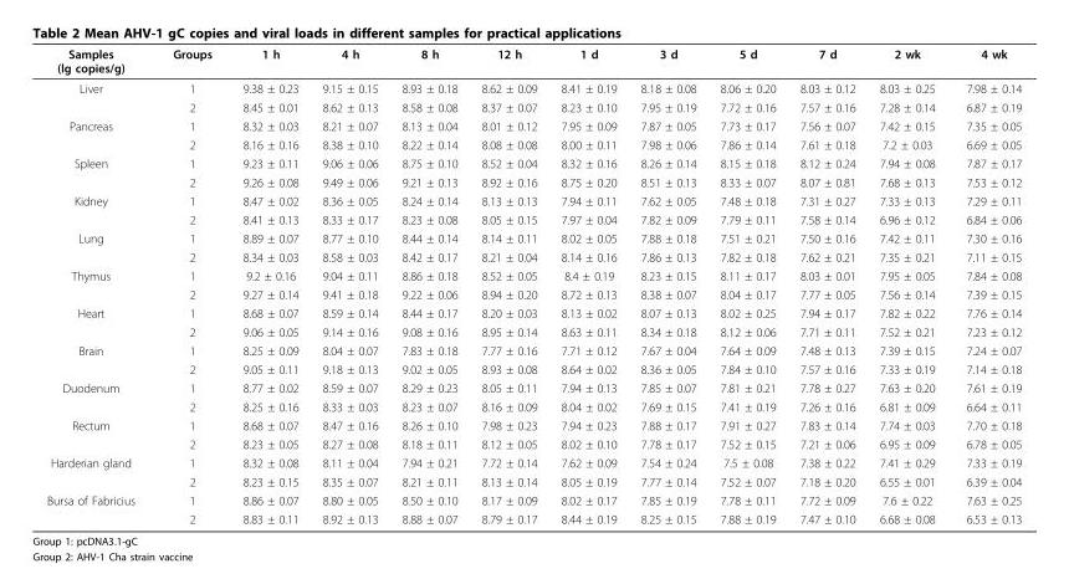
<table><thead><tr><td>Samples (lg copies/g)</td><td>Groups</td><td>1 h</td><td>4 h</td><td>8 h</td><td>12 h</td><td>1 d</td><td>3 d</td><td>5 d</td><td>7 d</td><td>2 wk</td><td>4 wk</td></tr></thead><tbody><tr><td rowspan="2">Liver</td><td>1</td><td>9.38 ± 0.23</td><td>9.15 ± 0.15</td><td>8.93 ± 0.18</td><td>8.62 ± 0.09</td><td>8.41 ± 0.19</td><td>8.18 ± 0.08</td><td>8.06 ± 0.20</td><td>8.03 ± 0.12</td><td>8.03 ± 0.25</td><td>7.98 ± 0.14</td></tr><tr><td>2</td><td>8.45 ± 0.01</td><td>8.62 ± 0.13</td><td>8.58 ± 0.08</td><td>8.37 ± 0.07</td><td>8.23 ± 0.10</td><td>7.95 ± 0.19</td><td>7.72 ± 0.16</td><td>7.57 ± 0.16</td><td>7.28 ± 0.14</td><td>6.87 ± 0.19</td></tr><tr><td rowspan="2">Pancreas</td><td>1</td><td>8.32 ± 0.03</td><td>8.21 ± 0.07</td><td>8.13 ± 0.04</td><td>8.01 ± 0.12</td><td>7.95 ± 0.09</td><td>7.87 ± 0.05</td><td>7.73 ± 0.17</td><td>7.56 ± 0.07</td><td>7.42 ± 0.15</td><td>7.35 ± 0.05</td></tr><tr><td>2</td><td>8.16 ± 0.16</td><td>8.38 ± 0.10</td><td>8.22 ± 0.14</td><td>8.08 ± 0.08</td><td>8.00 ± 0.11</td><td>7.98 ± 0.06</td><td>7.86 ± 0.14</td><td>7.61 ± 0.18</td><td>7.2 ± 0.03</td><td>6.69 ± 0.05</td></tr><tr><td rowspan="2">Spleen</td><td>1</td><td>9.23 ± 0.11</td><td>9.06 ± 0.06</td><td>8.75 ± 0.10</td><td>8.52 ± 0.04</td><td>8.32 ± 0.16</td><td>8.26 ± 0.14</td><td>8.15 ± 0.18</td><td>8.12 ± 0.24</td><td>7.94 ± 0.08</td><td>7.87 ± 0.17</td></tr><tr><td>2</td><td>9.26 ± 0.08</td><td>9.49 ± 0.06</td><td>9.21 ± 0.13</td><td>8.92 ± 0.16</td><td>8.75 ± 0.20</td><td>8.51 ± 0.13</td><td>8.33 ± 0.07</td><td>8.07 ± 0.81</td><td>7.68 ± 0.13</td><td>7.53 ± 0.12</td></tr><tr><td rowspan="2">Kidney</td><td>1</td><td>8.47 ± 0.02</td><td>8.36 ± 0.05</td><td>8.24 ± 0.14</td><td>8.13 ± 0.13</td><td>7.94 ± 0.11</td><td>7.62 ± 0.05</td><td>7.48 ± 0.18</td><td>7.31 ± 0.27</td><td>7.33 ± 0.13</td><td>7.29 ± 0.11</td></tr><tr><td>2</td><td>8.41 ± 0.13</td><td>8.33 ± 0.17</td><td>8.23 ± 0.08</td><td>8.05 ± 0.15</td><td>7.97 ± 0.04</td><td>7.82 ± 0.09</td><td>7.79 ± 0.11</td><td>7.58 ± 0.14</td><td>6.96 ± 0.12</td><td>6.84 ± 0.06</td></tr><tr><td rowspan="2">Lung</td><td>1</td><td>8.89 ± 0.07</td><td>8.77 ± 0.10</td><td>8.44 ± 0.14</td><td>8.14 ± 0.11</td><td>8.02 ± 0.05</td><td>7.88 ± 0.18</td><td>7.51 ± 0.21</td><td>7.50 ± 0.16</td><td>7.42 ± 0.11</td><td>7.30 ± 0.16</td></tr><tr><td>2</td><td>8.34 ± 0.03</td><td>8.58 ± 0.03</td><td>8.42 ± 0.17</td><td>8.21 ± 0.04</td><td>8.14 ± 0.16</td><td>7.86 ± 0.13</td><td>7.82 ± 0.18</td><td>7.62 ± 0.21</td><td>7.35 ± 0.21</td><td>7.11 ± 0.15</td></tr><tr><td rowspan="2">Thymus</td><td>1</td><td>9.2 ± 0.16</td><td>9.04 ± 0.11</td><td>8.86 ± 0.18</td><td>8.52 ± 0.05</td><td>8.4 ± 0.19</td><td>8.23 ± 0.15</td><td>8.11 ± 0.17</td><td>8.03 ± 0.01</td><td>7.95 ± 0.05</td><td>7.84 ± 0.08</td></tr><tr><td>2</td><td>9.27 ± 0.14</td><td>9.41 ± 0.18</td><td>9.22 ± 0.06</td><td>8.94 ± 0.20</td><td>8.72 ± 0.13</td><td>8.38 ± 0.07</td><td>8.04 ± 0.17</td><td>7.77 ± 0.05</td><td>7.56 ± 0.14</td><td>7.39 ± 0.15</td></tr><tr><td rowspan="2">Heart</td><td>1</td><td>8.68 ± 0.07</td><td>8.59 ± 0.14</td><td>8.44 ± 0.17</td><td>8.20 ± 0.03</td><td>8.13 ± 0.02</td><td>8.07 ± 0.13</td><td>8.02 ± 0.25</td><td>7.94 ± 0.17</td><td>7.82 ± 0.22</td><td>7.76 ± 0.14</td></tr><tr><td>2</td><td>9.06 ± 0.05</td><td>9.14 ± 0.16</td><td>9.08 ± 0.16</td><td>8.95 ± 0.14</td><td>8.63 ± 0.11</td><td>8.34 ± 0.18</td><td>8.12 ± 0.06</td><td>7.71 ± 0.11</td><td>7.52 ± 0.21</td><td>7.23 ± 0.12</td></tr><tr><td rowspan="2">Brain</td><td>1</td><td>8.25 ± 0.09</td><td>8.04 ± 0.07</td><td>7.83 ± 0.18</td><td>7.77 ± 0.16</td><td>7.71 ± 0.12</td><td>7.67 ± 0.04</td><td>7.64 ± 0.09</td><td>7.48 ± 0.13</td><td>7.39 ± 0.15</td><td>7.24 ± 0.07</td></tr><tr><td>2</td><td>9.05 ± 0.11</td><td>9.18 ± 0.13</td><td>9.02 ± 0.05</td><td>8.93 ± 0.08</td><td>8.64 ± 0.02</td><td>8.36 ± 0.05</td><td>7.84 ± 0.10</td><td>7.57 ± 0.16</td><td>7.33 ± 0.19</td><td>7.14 ± 0.18</td></tr><tr><td rowspan="2">Duodenum</td><td>1</td><td>8.77 ± 0.02</td><td>8.59 ± 0.07</td><td>8.29 ± 0.23</td><td>8.05 ± 0.11</td><td>7.94 ± 0.13</td><td>7.85 ± 0.07</td><td>7.81 ± 0.21</td><td>7.78 ± 0.27</td><td>7.63 ± 0.20</td><td>7.61 ± 0.19</td></tr><tr><td>2</td><td>8.25 ± 0.16</td><td>8.33 ± 0.03</td><td>8.23 ± 0.07</td><td>8.16 ± 0.09</td><td>8.04 ± 0.02</td><td>7.69 ± 0.15</td><td>7.41 ± 0.19</td><td>7.26 ± 0.16</td><td>6.81 ± 0.09</td><td>6.64 ± 0.11</td></tr><tr><td rowspan="2">Rectum</td><td>1</td><td>8.68 ± 0.07</td><td>8.47 ± 0.16</td><td>8.26 ± 0.10</td><td>7.98 ± 0.23</td><td>7.94 ± 0.23</td><td>7.88 ± 0.17</td><td>7.91 ± 0.27</td><td>7.83 ± 0.14</td><td>7.74 ± 0.03</td><td>7.70 ± 0.18</td></tr><tr><td>2</td><td>8.23 ± 0.05</td><td>8.27 ± 0.08</td><td>8.18 ± 0.11</td><td>8.12 ± 0.05</td><td>8.02 ± 0.10</td><td>7.78 ± 0.17</td><td>7.52 ± 0.15</td><td>7.21 ± 0.06</td><td>6.95 ± 0.09</td><td>6.78 ± 0.05</td></tr><tr><td rowspan="2">Harderian gland</td><td>1</td><td>8.32 ± 0.08</td><td>8.11 ± 0.04</td><td>7.94 ± 0.21</td><td>7.72 ± 0.14</td><td>7.62 ± 0.09</td><td>7.54 ± 0.24</td><td>7.5 ± 0.08</td><td>7.38 ± 0.22</td><td>7.41 ± 0.29</td><td>7.33 ± 0.19</td></tr><tr><td>2</td><td>8.23 ± 0.15</td><td>8.35 ± 0.07</td><td>8.21 ± 0.11</td><td>8.13 ± 0.14</td><td>8.05 ± 0.19</td><td>7.77 ± 0.14</td><td>7.52 ± 0.07</td><td>7.18 ± 0.20</td><td>6.55 ± 0.01</td><td>6.39 ± 0.04</td></tr><tr><td rowspan="2">Bursa of Fabricius</td><td>1</td><td>8.86 ± 0.07</td><td>8.80 ± 0.05</td><td>8.50 ± 0.10</td><td>8.17 ± 0.09</td><td>8.02 ± 0.17</td><td>7.85 ± 0.19</td><td>7.78 ± 0.11</td><td>7.72 ± 0.09</td><td>7.6 ± 0.22</td><td>7.63 ± 0.25</td></tr><tr><td>2</td><td>8.83 ± 0.11</td><td>8.92 ± 0.13</td><td>8.88 ± 0.07</td><td>8.79 ± 0.17</td><td>8.44 ± 0.19</td><td>8.25 ± 0.15</td><td>7.88 ± 0.19</td><td>7.47 ± 0.10</td><td>6.68 ± 0.08</td><td>6.53 ± 0.13</td></tr></tbody></table>